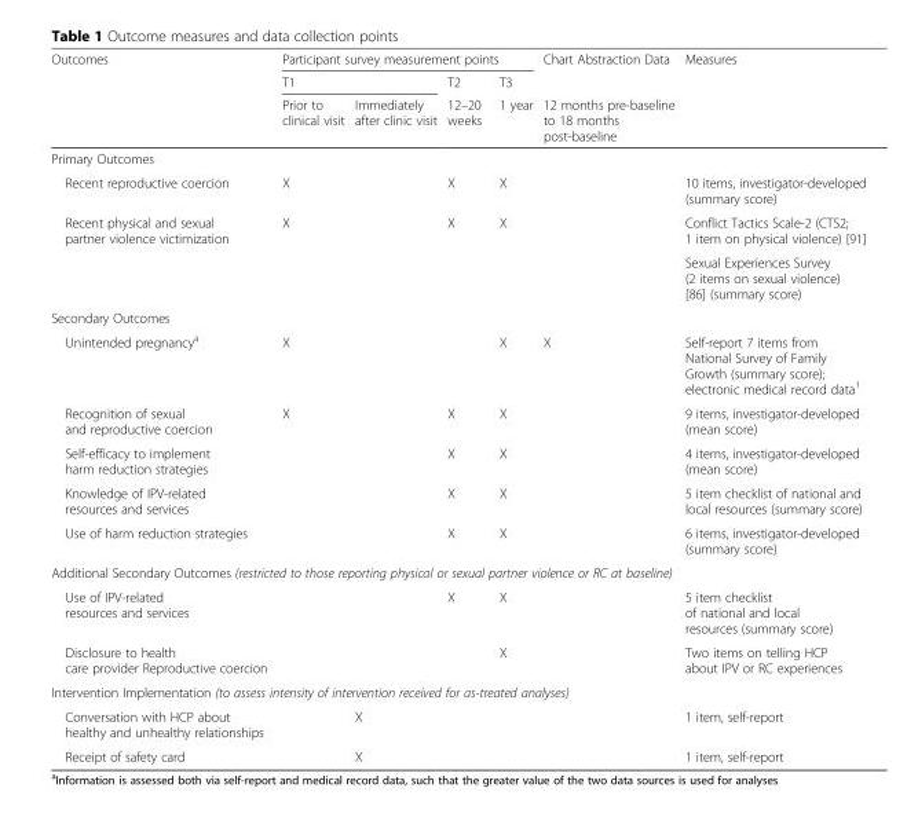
<table><thead><tr><td rowspan="3">Outcomes</td><td colspan="4">Participant survey measurement points</td><td rowspan="3">Chart Abstraction Data 12 months pre-baseline to 18 months post-baseline</td><td rowspan="3">Measures</td></tr><tr><td colspan="2">T1</td><td rowspan="2">T2 12–20 weeks</td><td rowspan="2">T3 1 year</td></tr><tr><td>Prior to clinical visit</td><td>Immediately after clinic visit</td></tr></thead><tbody><tr><td colspan="7">Primary Outcomes</td></tr><tr><td>Recent reproductive coercion</td><td>X</td><td></td><td>X</td><td>X</td><td></td><td>10 items, investigator-developed (summary score)</td></tr><tr><td rowspan="2">Recent physical and sexual partner violence victimization</td><td rowspan="2">X</td><td rowspan="2"></td><td rowspan="2">X</td><td rowspan="2">X</td><td rowspan="2"></td><td>Conflict Tactics Scale-2 (CTS2; 1 item on physical violence) [91]</td></tr><tr><td>Sexual Experiences Survey (2 items on sexual violence) [86] (summary score)</td></tr><tr><td colspan="7">Secondary Outcomes</td></tr><tr><td>Unintended pregnancy<sup>a</sup></td><td>X</td><td></td><td></td><td>X</td><td>X</td><td>Self-report 7 items from National Survey of Family Growth (summary score); electronic medical record data<sup>1</sup></td></tr><tr><td>Recognition of sexual and reproductive coercion</td><td>X</td><td></td><td>X</td><td>X</td><td></td><td>9 items, investigator-developed (mean score)</td></tr><tr><td>Self-efficacy to implement harm reduction strategies</td><td></td><td></td><td>X</td><td>X</td><td></td><td>4 items, investigator-developed (mean score)</td></tr><tr><td>Knowledge of IPV-related resources and services</td><td></td><td></td><td>X</td><td>X</td><td></td><td>5 item checklist of national and local resources (summary score)</td></tr><tr><td>Use of harm reduction strategies</td><td></td><td></td><td>X</td><td>X</td><td></td><td>6 items, investigator-developed (summary score)</td></tr><tr><td colspan="7">Additional Secondary Outcomes (restricted to those reporting physical or sexual partner violence or RC at baseline)</td></tr><tr><td>Use of IPV-related resources and services</td><td></td><td></td><td>X</td><td>X</td><td></td><td>5 item checklist of national and local resources (summary score)</td></tr><tr><td>Disclosure to health care provider Reproductive coercion</td><td></td><td></td><td></td><td>X</td><td></td><td>Two items on telling HCP about IPV or RC experiences</td></tr><tr><td colspan="7">Intervention Implementation (to assess intensity of intervention received for as-treated analyses)</td></tr><tr><td>Conversation with HCP about healthy and unhealthy relationships</td><td></td><td>X</td><td></td><td></td><td></td><td>1 item, self-report</td></tr><tr><td>Receipt of safety card</td><td></td><td>X</td><td></td><td></td><td></td><td>1 item, self-report</td></tr></tbody></table>